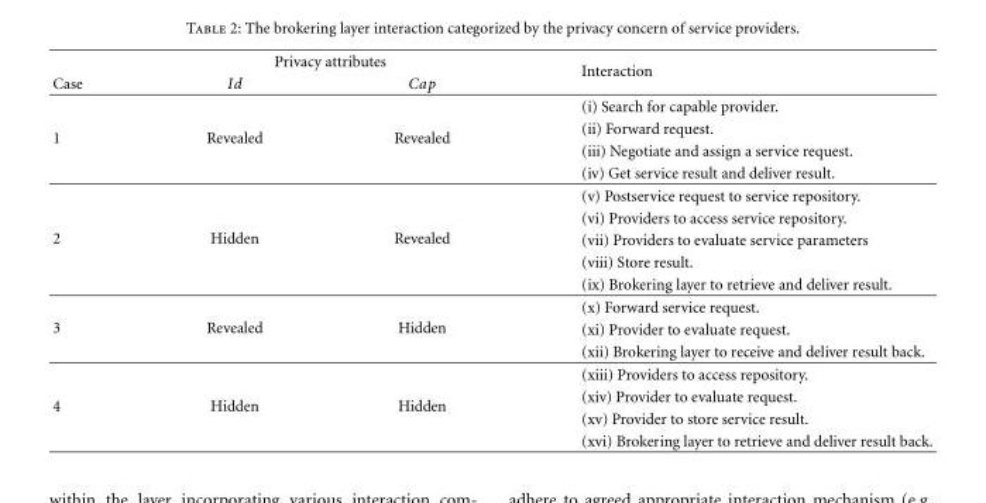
<table><thead><tr><td rowspan="2">Case</td><td colspan="2">Privacy attributes</td><td rowspan="2">Interaction</td></tr><tr><td>Id</td><td>Cap</td></tr></thead><tbody><tr><td rowspan="4">1</td><td rowspan="4">Revealed</td><td rowspan="4">Revealed</td><td>(i) Search for capable provider.</td></tr><tr><td>(ii) Forward request.</td></tr><tr><td>(iii) Negotiate and assign a service request.</td></tr><tr><td>(iv) Get service result and deliver result.</td></tr><tr><td rowspan="5">2</td><td rowspan="5">Hidden</td><td rowspan="5">Revealed</td><td>(v) Postservice request to service repository.</td></tr><tr><td>(vi) Providers to access service repository.</td></tr><tr><td>(vii) Providers to evaluate service parameters</td></tr><tr><td>(viii) Store result.</td></tr><tr><td>(ix) Brokering layer to retrieve and deliver result.</td></tr><tr><td rowspan="3">3</td><td rowspan="3">Revealed</td><td rowspan="3">Hidden</td><td>(x) Forward service request.</td></tr><tr><td>(xi) Provider to evaluate request.</td></tr><tr><td>(xii) Brokering layer to receive and deliver result back.</td></tr><tr><td rowspan="4">4</td><td rowspan="4">Hidden</td><td rowspan="4">Hidden</td><td>(xiii) Providers to access repository.</td></tr><tr><td>(xiv) Provider to evaluate request.</td></tr><tr><td>(xv) Provider to store service result.</td></tr><tr><td>(xvi) Brokering layer to retrieve and deliver result back.</td></tr></tbody></table>